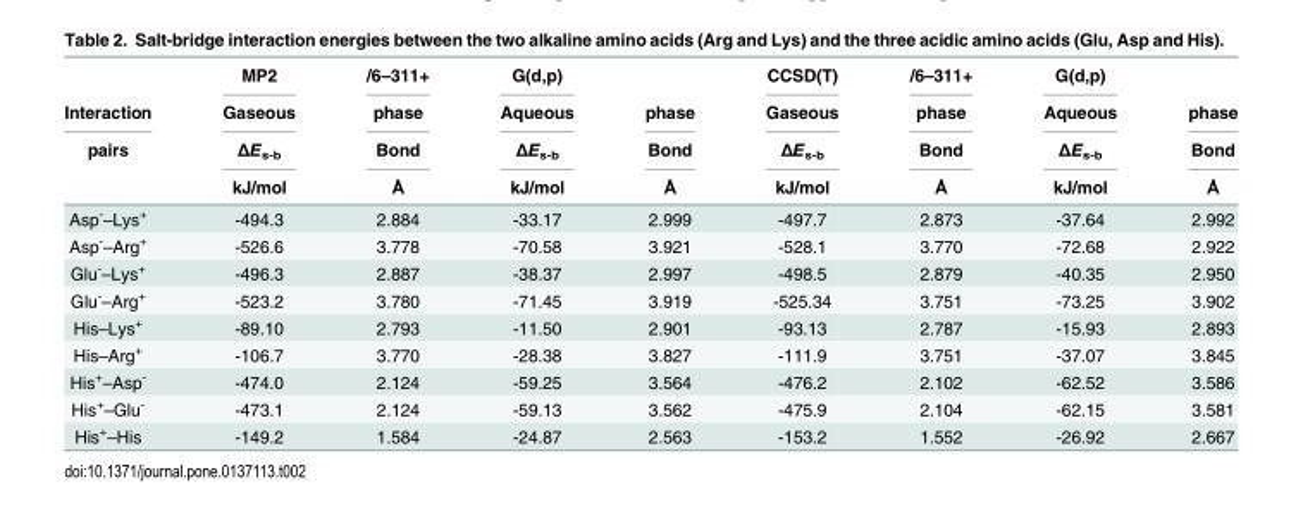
<table><thead><tr><td rowspan="4">Interaction pairs</td><td rowspan="4">MP2 Gaseous ΔE<sub>s-b</sub> kJ/mol</td><td rowspan="4">/6–311+ phase Bond Å</td><td rowspan="4">G(d,p) Aqueous ΔE<sub>s-b</sub> kJ/mol</td><td rowspan="4">phase Bond Å</td><td rowspan="4">CCSD(T) Gaseous ΔE<sub>s-b</sub> kJ/mol</td><td rowspan="4">/6–311+ phase Bond Å</td><td rowspan="4">G(d,p) Aqueous ΔE<sub>s-b</sub> kJ/mol</td><td rowspan="4">phase Bond Å</td></tr><tr></tr><tr></tr><tr></tr></thead><tbody><tr><td>Asp<sup>-</sup>–Lys<sup>+</sup></td><td>-494.3</td><td>2.884</td><td>-33.17</td><td>2.999</td><td>-497.7</td><td>2.873</td><td>-37.64</td><td>2.992</td></tr><tr><td>Asp<sup>-</sup>–Arg<sup>+</sup></td><td>-526.6</td><td>3.778</td><td>-70.58</td><td>3.921</td><td>-528.1</td><td>3.770</td><td>-72.68</td><td>2.922</td></tr><tr><td>Glu<sup>-</sup>–Lys<sup>+</sup></td><td>-496.3</td><td>2.887</td><td>-38.37</td><td>2.997</td><td>-498.5</td><td>2.879</td><td>-40.35</td><td>2.950</td></tr><tr><td>Glu<sup>-</sup>–Arg<sup>+</sup></td><td>-523.2</td><td>3.780</td><td>-71.45</td><td>3.919</td><td>-525.34</td><td>3.751</td><td>-73.25</td><td>3.902</td></tr><tr><td>His–Lys<sup>+</sup></td><td>-89.10</td><td>2.793</td><td>-11.50</td><td>2.901</td><td>-93.13</td><td>2.787</td><td>-15.93</td><td>2.893</td></tr><tr><td>His–Arg<sup>+</sup></td><td>-106.7</td><td>3.770</td><td>-28.38</td><td>3.827</td><td>-111.9</td><td>3.751</td><td>-37.07</td><td>3.845</td></tr><tr><td>His<sup>+</sup>–Asp<sup>-</sup></td><td>-474.0</td><td>2.124</td><td>-59.25</td><td>3.564</td><td>-476.2</td><td>2.102</td><td>-62.52</td><td>3.586</td></tr><tr><td>His<sup>+</sup>–Glu<sup>-</sup></td><td>-473.1</td><td>2.124</td><td>-59.13</td><td>3.562</td><td>-475.9</td><td>2.104</td><td>-62.15</td><td>3.581</td></tr><tr><td>His<sup>+</sup>–His</td><td>-149.2</td><td>1.584</td><td>-24.87</td><td>2.563</td><td>-153.2</td><td>1.552</td><td>-26.92</td><td>2.667</td></tr></tbody></table>